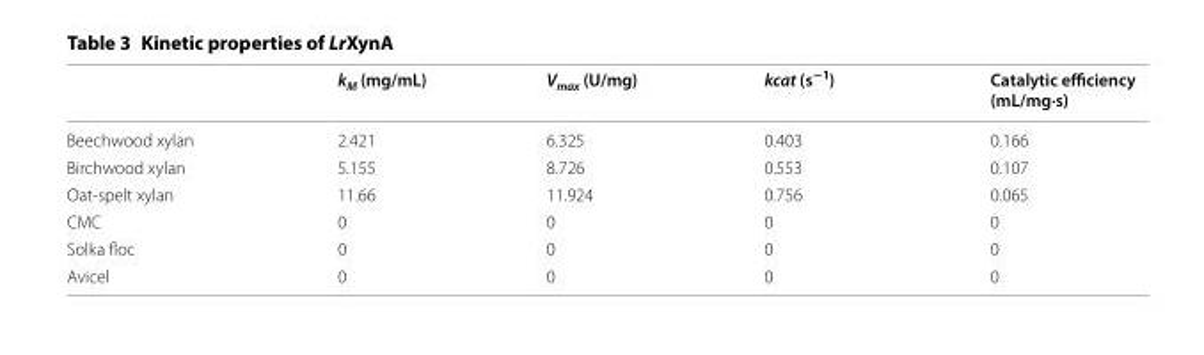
<table><thead><tr><td></td><td>k<sub>M</sub> (mg/mL)</td><td>V<sub>max</sub> (U/mg)</td><td>kcat (s<sup>−1</sup>)</td><td>Catalytic efficiency (mL/mg∙s)</td></tr></thead><tbody><tr><td>Beechwood xylan</td><td>2.421</td><td>6.325</td><td>0.403</td><td>0.166</td></tr><tr><td>Birchwood xylan</td><td>5.155</td><td>8.726</td><td>0.553</td><td>0.107</td></tr><tr><td>Oat‑spelt xylan</td><td>11.66</td><td>11.924</td><td>0.756</td><td>0.065</td></tr><tr><td>CMC</td><td>0</td><td>0</td><td>0</td><td>0</td></tr><tr><td>Solka floc</td><td>0</td><td>0</td><td>0</td><td>0</td></tr><tr><td>Avicel</td><td>0</td><td>0</td><td>0</td><td>0</td></tr></tbody></table>